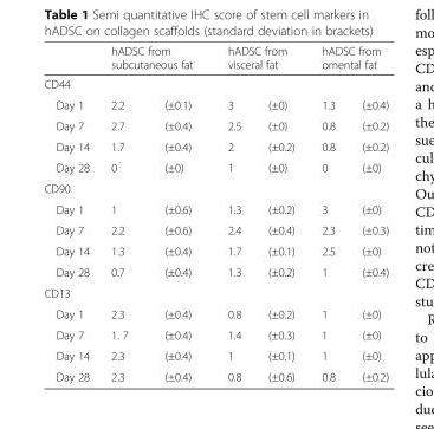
<table><thead><tr><td></td><td colspan="2">hADSC from subcutaneous fat</td><td colspan="2">hADSC from visceral fat</td><td colspan="2">hADSC from omental fat</td></tr><tr><td colspan="7">CD44</td></tr><tr><td>Day 1</td><td>2.2</td><td>(±0.1)</td><td>3</td><td>(±0)</td><td>1.3</td><td>(±0.4)</td></tr></thead><tbody><tr><td>Day 7</td><td>2.7</td><td>(±0.4)</td><td>2.5</td><td>(±0)</td><td>0.8</td><td>(±0.2)</td></tr><tr><td>Day 14</td><td>1.7</td><td>(±0.4)</td><td>2</td><td>(±0.2)</td><td>0.8</td><td>(±0.2)</td></tr><tr><td>Day 28</td><td>0</td><td>(±0)</td><td>1</td><td>(±0)</td><td>0</td><td>(±0)</td></tr><tr><td colspan="7">CD90</td></tr><tr><td>Day 1</td><td>1</td><td>(±0.6)</td><td>1.3</td><td>(±0.2)</td><td>3</td><td>(±0)</td></tr><tr><td>Day 7</td><td>2.2</td><td>(±0.6)</td><td>2.4</td><td>(±0.4)</td><td>2.3</td><td>(±0.3)</td></tr><tr><td>Day 14</td><td>1.3</td><td>(±0.4)</td><td>1.7</td><td>(±0.1)</td><td>2.5</td><td>(±0)</td></tr><tr><td>Day 28</td><td>0.7</td><td>(±0.4)</td><td>1.3</td><td>(±0.2)</td><td>1</td><td>(±0.4)</td></tr><tr><td colspan="7">CD13</td></tr><tr><td>Day 1</td><td>2.3</td><td>(±0.4)</td><td>0.8</td><td>(±0.2)</td><td>1</td><td>(±0)</td></tr><tr><td>Day 7</td><td>1. 7</td><td>(±0.4)</td><td>1.4</td><td>(±0.3)</td><td>1</td><td>(±0)</td></tr><tr><td>Day 14</td><td>2.3</td><td>(±0.4)</td><td>1</td><td>(±0.1)</td><td>1</td><td>(±0)</td></tr><tr><td>Day 28</td><td>2.3</td><td>(±0.4)</td><td>0.8</td><td>(±0.6)</td><td>0.8</td><td>(±0.2)</td></tr></tbody></table>